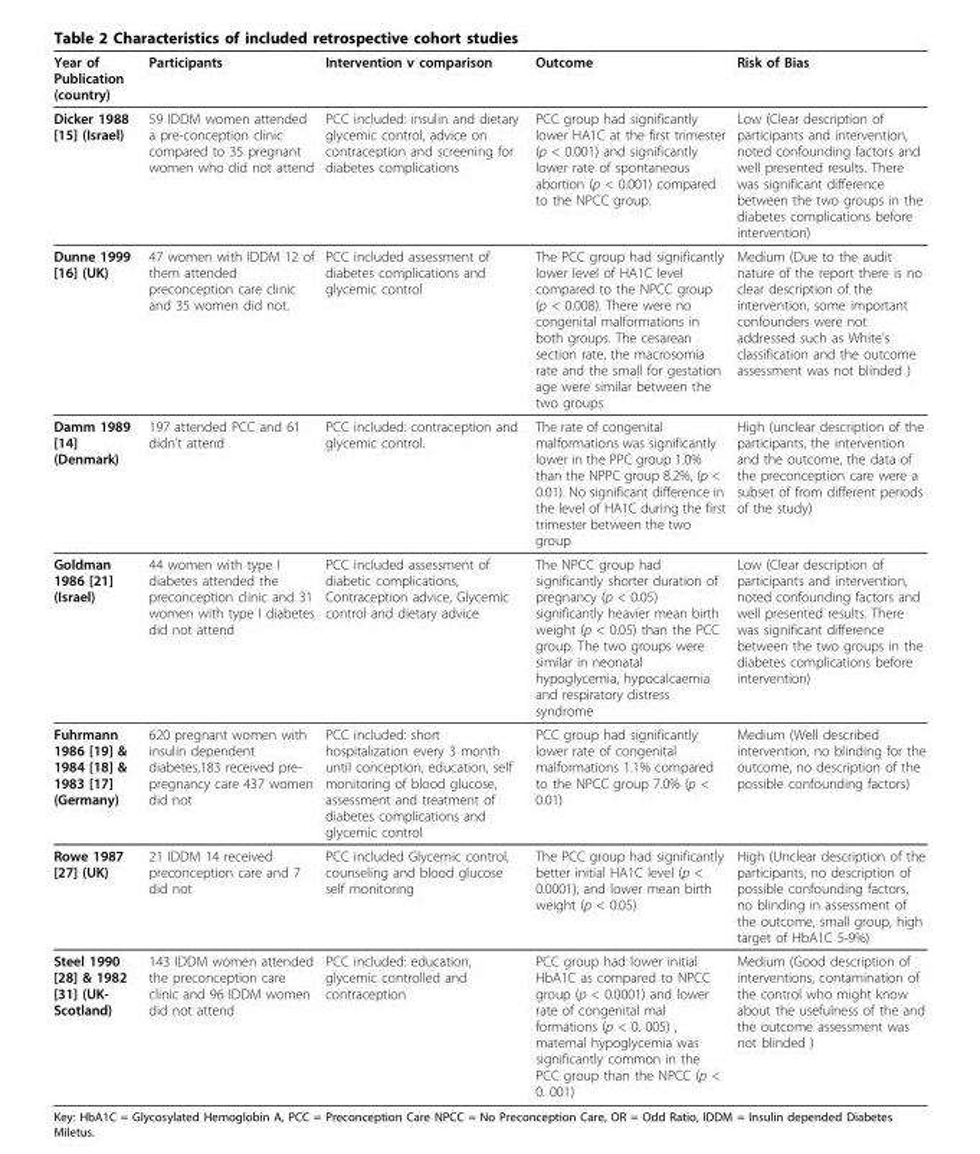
<table><thead><tr><td>Year of Publication (country)</td><td>Participants</td><td>Intervention v comparison</td><td>Outcome</td><td>Risk of Bias</td></tr></thead><tbody><tr><td>Dicker 1988 [15] (Israel)</td><td>59 IDDM women attended a pre-conception clinic compared to 35 pregnant women who did not attend</td><td>PCC included: insulin and dietary glycemic control, advice on contraception and screening for diabetes complications</td><td>PCC group had significantly lower HA1C at the first trimester (p &lt; 0.001) and significantly lower rate of spontaneous abortion (p &lt; 0.001) compared to the NPCC group.</td><td>Low (Clear description of participants and intervention, noted confounding factors and well presented results. There was significant difference between the two groups in the diabetes complications before intervention)</td></tr><tr><td>Dunne 1999 [16] (UK)</td><td>47 women with IDDM 12 of them attended preconception care clinic and 35 women did not.</td><td>PCC included assessment of diabetes complications and glycemic control</td><td>The PCC group had significantly lower level of HA1C level compared to the NPCC group (p &lt; 0.008). There were no congenital malformations in both groups. The cesarean section rate, the macrosomia rate and the small for gestation age were similar between the two groups</td><td>Medium (Due to the audit nature of the report there is no clear description of the intervention, some important confounders were not addressed such as White’s classification and the outcome assessment was not blinded )</td></tr><tr><td>Damm 1989 [14] (Denmark)</td><td>197 attended PCC and 61 didn’t attend</td><td>PCC included: contraception and glycemic control.</td><td>The rate of congenital malformations was significantly lower in the PPC group 1.0% than the NPPC group 8.2%, (p &lt; 0.01). No significant difference in the level of HA1C during the first trimester between the two group</td><td>High (unclear description of the participants, the intervention and the outcome, the data of the preconception care were a subset of from different periods of the study)</td></tr><tr><td>Goldman 1986 [21] (Israel)</td><td>44 women with type I diabetes attended the preconception clinic and 31 women with type I diabetes did not attend</td><td>PCC included assessment of diabetic complications, Contraception advice, Glycemic control and dietary advice</td><td>The NPCC group had significantly shorter duration of pregnancy (p &lt; 0.05) significantly heavier mean birth weight (p &lt; 0.05) than the PCC group. The two groups were similar in neonatal hypoglycemia, hypocalcaemia and respiratory distress syndrome</td><td>Low (Clear description of participants and intervention, noted confounding factors and well presented results. There was significant difference between the two groups in the diabetes complications before intervention)</td></tr><tr><td>Fuhrmann 1986 [19] &amp; 1984 [18] &amp; 1983 [17] (Germany)</td><td>620 pregnant women with insulin dependent diabetes,183 received pre- pregnancy care 437 women did not</td><td>PCC included: short hospitalization every 3 month until conception, education, self monitoring of blood glucose, assessment and treatment of diabetes complications and glycemic control</td><td>PCC group had significantly lower rate of congenital malformations 1.1% compared to the NPCC group 7.0% (p &lt; 0.01)</td><td>Medium (Well described intervention, no blinding for the outcome, no description of the possible confounding factors)</td></tr><tr><td>Rowe 1987 [27] (UK)</td><td>21 IDDM 14 received preconception care and 7 did not</td><td>PCC included Glycemic control, counseling and blood glucose self monitoring</td><td>The PCC group had significantly better initial HA1C level (p &lt; 0.0001), and lower mean birth weight (p &lt; 0.05)</td><td>High (Unclear description of the participants, no description of possible confounding factors, no blinding in assessment of the outcome, small group, high target of HbA1C 5-9%)</td></tr><tr><td>Steel 1990 [28] &amp; 1982 [31] (UK- Scotland)</td><td>143 IDDM women attended the preconception care clinic and 96 IDDM women did not attend</td><td>PCC included: education, glycemic controlled and contraception</td><td>PCC group had lower initial HbA1C as compared to NPCC group (p &lt; 0.0001) and lower rate of congenital mal formations (p &lt; 0. 005) , maternal hypoglycemia was significantly common in the PCC group than the NPCC (p &lt; 0. 001)</td><td>Medium (Good description of interventions, contamination of the control who might know about the usefulness of the and the outcome assessment was not blinded )</td></tr></tbody></table>